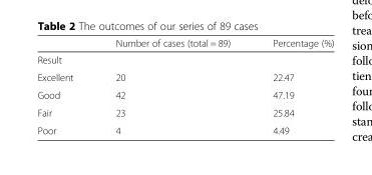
<table><thead><tr><td></td><td>Number of cases (total = 89)</td><td>Percentage (%)</td></tr></thead><tbody><tr><td colspan="3">Result</td></tr><tr><td>Excellent</td><td>20</td><td>22.47</td></tr><tr><td>Good</td><td>42</td><td>47.19</td></tr><tr><td>Fair</td><td>23</td><td>25.84</td></tr><tr><td>Poor</td><td>4</td><td>4.49</td></tr></tbody></table>